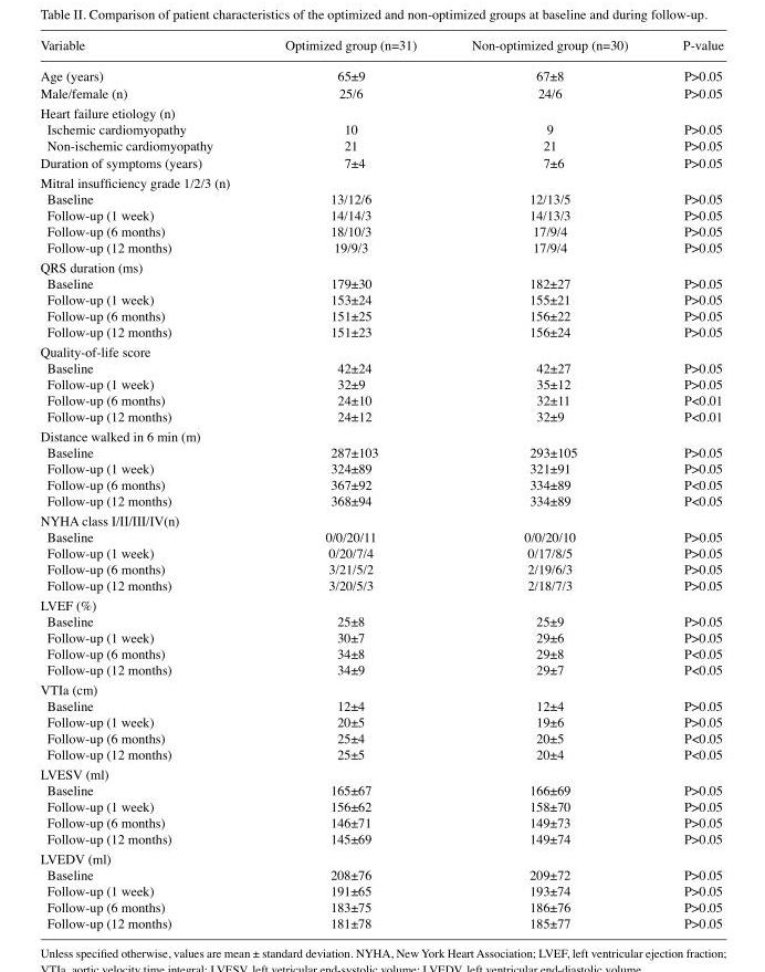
<table><thead><tr><td>Variable</td><td>Optimized group (n=31)</td><td>Non-optimized group (n=30)</td><td>P-value</td></tr></thead><tbody><tr><td>Age (years)</td><td>65±9</td><td>67±8</td><td>P&gt;0.05</td></tr><tr><td>Male/female (n)</td><td>25/6</td><td>24/6</td><td>P&gt;0.05</td></tr><tr><td colspan="4">Heart failure etiology (n)</td></tr><tr><td>Ischemic cardiomyopathy</td><td>10</td><td>9</td><td>P&gt;0.05</td></tr><tr><td>Non-ischemic cardiomyopathy</td><td>21</td><td>21</td><td>P&gt;0.05</td></tr><tr><td>Duration of symptoms (years)</td><td>7±4</td><td>7±6</td><td>P&gt;0.05</td></tr><tr><td colspan="4">Mitral insufficiency grade 1/2/3 (n)</td></tr><tr><td>Baseline</td><td>13/12/6</td><td>12/13/5</td><td>P&gt;0.05</td></tr><tr><td>Follow-up (1 week)</td><td>14/14/3</td><td>14/13/3</td><td>P&gt;0.05</td></tr><tr><td>Follow-up (6 months)</td><td>18/10/3</td><td>17/9/4</td><td>P&gt;0.05</td></tr><tr><td>Follow-up (12 months)</td><td>19/9/3</td><td>17/9/4</td><td>P&gt;0.05</td></tr><tr><td colspan="4">QRS duration (ms)</td></tr><tr><td>Baseline</td><td>179±30</td><td>182±27</td><td>P&gt;0.05</td></tr><tr><td>Follow-up (1 week)</td><td>153±24</td><td>155±21</td><td>P&gt;0.05</td></tr><tr><td>Follow-up (6 months)</td><td>151±25</td><td>156±22</td><td>P&gt;0.05</td></tr><tr><td>Follow-up (12 months)</td><td>151±23</td><td>156±24</td><td>P&gt;0.05</td></tr><tr><td colspan="4">Quality-of-life score</td></tr><tr><td>Baseline</td><td>42±24</td><td>42±27</td><td>P&gt;0.05</td></tr><tr><td>Follow-up (1 week)</td><td>32±9</td><td>35±12</td><td>P&gt;0.05</td></tr><tr><td>Follow-up (6 months)</td><td>24±10</td><td>32±11</td><td>P&lt;0.01</td></tr><tr><td>Follow-up (12 months)</td><td>24±12</td><td>32±9</td><td>P&lt;0.01</td></tr><tr><td colspan="4">Distance walked in 6 min (m)</td></tr><tr><td>Baseline</td><td>287±103</td><td>293±105</td><td>P&gt;0.05</td></tr><tr><td>Follow-up (1 week)</td><td>324±89</td><td>321±91</td><td>P&gt;0.05</td></tr><tr><td>Follow-up (6 months)</td><td>367±92</td><td>334±89</td><td>P&lt;0.05</td></tr><tr><td>Follow-up (12 months)</td><td>368±94</td><td>334±89</td><td>P&lt;0.05</td></tr><tr><td colspan="4">NYHA class I/II/III/IV(n)</td></tr><tr><td>Baseline</td><td>0/0/20/11</td><td>0/0/20/10</td><td>P&gt;0.05</td></tr><tr><td>Follow-up (1 week)</td><td>0/20/7/4</td><td>0/17/8/5</td><td>P&gt;0.05</td></tr><tr><td>Follow-up (6 months)</td><td>3/21/5/2</td><td>2/19/6/3</td><td>P&gt;0.05</td></tr><tr><td>Follow-up (12 months)</td><td>3/20/5/3</td><td>2/18/7/3</td><td>P&gt;0.05</td></tr><tr><td colspan="4">LVEF (%)</td></tr><tr><td>Baseline</td><td>25±8</td><td>25±9</td><td>P&gt;0.05</td></tr><tr><td>Follow-up (1 week)</td><td>30±7</td><td>29±6</td><td>P&gt;0.05</td></tr><tr><td>Follow-up (6 months)</td><td>34±8</td><td>29±8</td><td>P&lt;0.05</td></tr><tr><td>Follow-up (12 months)</td><td>34±9</td><td>29±7</td><td>P&lt;0.05</td></tr><tr><td colspan="4">VTIa (cm)</td></tr><tr><td>Baseline</td><td>12±4</td><td>12±4</td><td>P&gt;0.05</td></tr><tr><td>Follow-up (1 week)</td><td>20±5</td><td>19±6</td><td>P&gt;0.05</td></tr><tr><td>Follow-up (6 months)</td><td>25±4</td><td>20±5</td><td>P&lt;0.05</td></tr><tr><td>Follow-up (12 months)</td><td>25±5</td><td>20±4</td><td>P&lt;0.05</td></tr><tr><td colspan="4">LVESV (ml)</td></tr><tr><td>Baseline</td><td>165±67</td><td>166±69</td><td>P&gt;0.05</td></tr><tr><td>Follow-up (1 week)</td><td>156±62</td><td>158±70</td><td>P&gt;0.05</td></tr><tr><td>Follow-up (6 months)</td><td>146±71</td><td>149±73</td><td>P&gt;0.05</td></tr><tr><td>Follow-up (12 months)</td><td>145±69</td><td>149±74</td><td>P&gt;0.05</td></tr><tr><td colspan="4">LVEDV (ml)</td></tr><tr><td>Baseline</td><td>208±76</td><td>209±72</td><td>P&gt;0.05</td></tr><tr><td>Follow-up (1 week)</td><td>191±65</td><td>193±74</td><td>P&gt;0.05</td></tr><tr><td>Follow-up (6 months)</td><td>183±75</td><td>186±76</td><td>P&gt;0.05</td></tr><tr><td>Follow-up (12 months)</td><td>181±78</td><td>185±77</td><td>P&gt;0.05</td></tr></tbody></table>